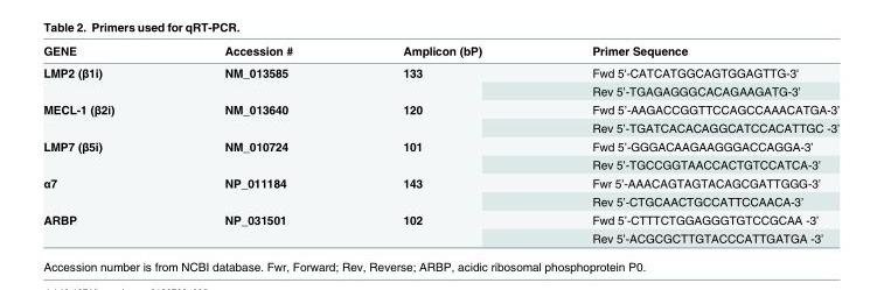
<table><thead><tr><td>GENE</td><td>Accession #</td><td>Amplicon (bP)</td><td>Primer Sequence</td></tr></thead><tbody><tr><td rowspan="2">LMP2 (β1i)</td><td rowspan="2">NM_013585</td><td rowspan="2">133</td><td>Fwd 5&#x27;-CATCATGGCAGTGGAGTTG-3&#x27;</td></tr><tr><td>Rev 5’-TGAGAGGGCACAGAAGATG-3’</td></tr><tr><td rowspan="2">MECL-1 (β2i)</td><td rowspan="2">NM_013640</td><td rowspan="2">120</td><td>Fwd 5’-AAGACCGGTTCCAGCCAAACATGA-3’</td></tr><tr><td>Rev 5’-TGATCACACAGGCATCCACATTGC -3’</td></tr><tr><td rowspan="2">LMP7 (β5i)</td><td rowspan="2">NM_010724</td><td rowspan="2">101</td><td>Fwd 5’-GGGACAAGAAGGGACCAGGA-3’</td></tr><tr><td>Rev 5’-TGCCGGTAACCACTGTCCATCA-3’</td></tr><tr><td rowspan="2">α7</td><td rowspan="2">NP_011184</td><td rowspan="2">143</td><td>Fwr 5’-AAACAGTAGTACAGCGATTGGG-3’</td></tr><tr><td>Rev 5’-CTGCAACTGCCATTCCAACA-3’</td></tr><tr><td rowspan="2">ARBP</td><td rowspan="2">NP_031501</td><td rowspan="2">102</td><td>Fwd 5’-CTTTCTGGAGGGTGTCCGCAA -3’</td></tr><tr><td>Rev 5’-ACGCGCTTGTACCCATTGATGA -3’</td></tr></tbody></table>